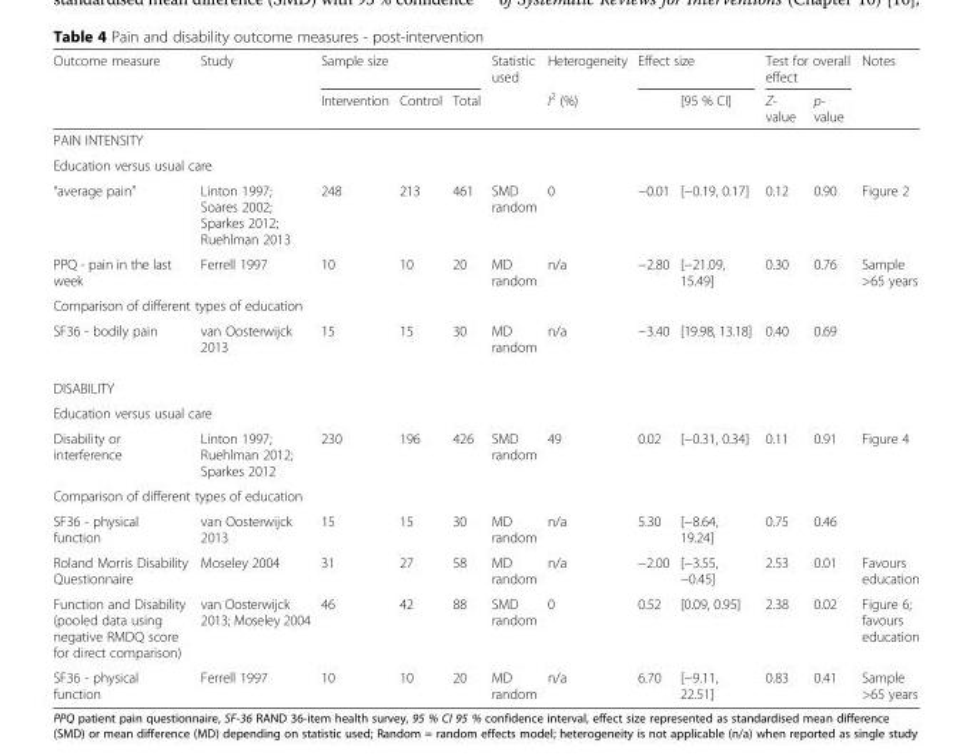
<table><thead><tr><td rowspan="2">Outcome measure</td><td rowspan="2">Study</td><td colspan="3">Sample size</td><td rowspan="2">Statistic used</td><td rowspan="2">Heterogeneity I<sup>2</sup> (%)</td><td colspan="2">Effect size</td><td colspan="2">Test for overall effect</td><td rowspan="2">Notes</td></tr><tr><td>Intervention</td><td>Control</td><td>Total</td><td></td><td>[95 % CI]</td><td>Z- value</td><td>p- value</td></tr></thead><tbody><tr><td colspan="12">PAIN INTENSITY</td></tr><tr><td colspan="12">Education versus usual care</td></tr><tr><td>“average pain”</td><td>Linton 1997; Soares 2002; Sparkes 2012; Ruehlman 2013</td><td>248</td><td>213</td><td>461</td><td>SMD random</td><td>0</td><td>−0.01</td><td>[−0.19, 0.17]</td><td>0.12</td><td>0.90</td><td>Figure 2</td></tr><tr><td>PPQ - pain in the last week</td><td>Ferrell 1997</td><td>10</td><td>10</td><td>20</td><td>MD random</td><td>n/a</td><td>−2.80</td><td>[−21.09, 15.49]</td><td>0.30</td><td>0.76</td><td>Sample &gt;65 years</td></tr><tr><td colspan="12">Comparison of different types of education</td></tr><tr><td>SF36 - bodily pain</td><td>van Oosterwijck 2013</td><td>15</td><td>15</td><td>30</td><td>MD random</td><td>n/a</td><td>−3.40</td><td>[19.98, 13.18]</td><td>0.40</td><td>0.69</td><td></td></tr><tr><td colspan="12">DISABILITY</td></tr><tr><td colspan="12">Education versus usual care</td></tr><tr><td>Disability or interference</td><td>Linton 1997; Ruehlman 2012; Sparkes 2012</td><td>230</td><td>196</td><td>426</td><td>SMD random</td><td>49</td><td>0.02</td><td>[−0.31, 0.34]</td><td>0.11</td><td>0.91</td><td>Figure 4</td></tr><tr><td colspan="12">Comparison of different types of education</td></tr><tr><td>SF36 - physical function</td><td>van Oosterwijck 2013</td><td>15</td><td>15</td><td>30</td><td>MD random</td><td>n/a</td><td>5.30</td><td>[−8.64, 19.24]</td><td>0.75</td><td>0.46</td><td></td></tr><tr><td>Roland Morris Disability Questionnaire</td><td>Moseley 2004</td><td>31</td><td>27</td><td>58</td><td>MD random</td><td>n/a</td><td>−2.00</td><td>[−3.55, −0.45]</td><td>2.53</td><td>0.01</td><td>Favours education</td></tr><tr><td>Function and Disability (pooled data using negative RMDQ score for direct comparison)</td><td>van Oosterwijck 2013; Moseley 2004</td><td>46</td><td>42</td><td>88</td><td>SMD random</td><td>0</td><td>0.52</td><td>[0.09, 0.95]</td><td>2.38</td><td>0.02</td><td>Figure 6; favours education</td></tr><tr><td>SF36 - physical function</td><td>Ferrell 1997</td><td>10</td><td>10</td><td>20</td><td>MD random</td><td>n/a</td><td>6.70</td><td>[−9.11, 22.51]</td><td>0.83</td><td>0.41</td><td>Sample &gt;65 years</td></tr></tbody></table>